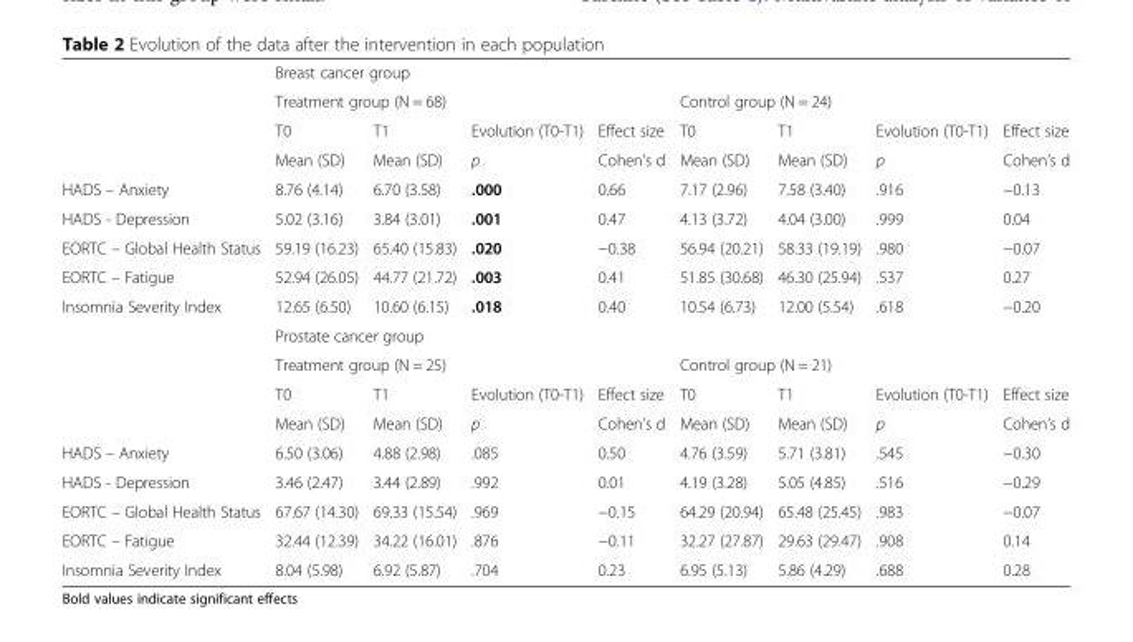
<table><thead><tr><td rowspan="3"></td><td colspan="8">Breast cancer group</td></tr><tr><td colspan="4">Treatment group (N = 68)</td><td colspan="4">Control group (N = 24)</td></tr><tr><td>T0</td><td>T1</td><td>Evolution (T0-T1)</td><td>Effect size</td><td>T0</td><td>T1</td><td>Evolution (T0-T1)</td><td>Effect size</td></tr></thead><tbody><tr><td></td><td>Mean (SD)</td><td>Mean (SD)</td><td>p</td><td>Cohen’s d</td><td>Mean (SD)</td><td>Mean (SD)</td><td>p</td><td>Cohen’s d</td></tr><tr><td>HADS – Anxiety</td><td>8.76 (4.14)</td><td>6.70 (3.58)</td><td>.000</td><td>0.66</td><td>7.17 (2.96)</td><td>7.58 (3.40)</td><td>.916</td><td>−0.13</td></tr><tr><td>HADS - Depression</td><td>5.02 (3.16)</td><td>3.84 (3.01)</td><td>.001</td><td>0.47</td><td>4.13 (3.72)</td><td>4.04 (3.00)</td><td>.999</td><td>0.04</td></tr><tr><td>EORTC – Global Health Status</td><td>59.19 (16.23)</td><td>65.40 (15.83)</td><td>.020</td><td>−0.38</td><td>56.94 (20.21)</td><td>58.33 (19.19)</td><td>.980</td><td>−0.07</td></tr><tr><td>EORTC – Fatigue</td><td>52.94 (26.05)</td><td>44.77 (21.72)</td><td>.003</td><td>0.41</td><td>51.85 (30.68)</td><td>46.30 (25.94)</td><td>.537</td><td>0.27</td></tr><tr><td rowspan="5">Insomnia Severity Index</td><td>12.65 (6.50)</td><td>10.60 (6.15)</td><td>.018</td><td>0.40</td><td>10.54 (6.73)</td><td>12.00 (5.54)</td><td>.618</td><td>−0.20</td></tr><tr><td colspan="8">Prostate cancer group</td></tr><tr><td colspan="4">Treatment group (N = 25)</td><td colspan="4">Control group (N = 21)</td></tr><tr><td>T0</td><td>T1</td><td>Evolution (T0-T1)</td><td>Effect size</td><td>T0</td><td>T1</td><td>Evolution (T0-T1)</td><td>Effect size</td></tr><tr><td>Mean (SD)</td><td>Mean (SD)</td><td>p</td><td>Cohen’s d</td><td>Mean (SD)</td><td>Mean (SD)</td><td>p</td><td>Cohen’s d</td></tr><tr><td>HADS – Anxiety</td><td>6.50 (3.06)</td><td>4.88 (2.98)</td><td>.085</td><td>0.50</td><td>4.76 (3.59)</td><td>5.71 (3.81)</td><td>.545</td><td>−0.30</td></tr><tr><td>HADS - Depression</td><td>3.46 (2.47)</td><td>3.44 (2.89)</td><td>.992</td><td>0.01</td><td>4.19 (3.28)</td><td>5.05 (4.85)</td><td>.516</td><td>−0.29</td></tr><tr><td>EORTC – Global Health Status</td><td>67.67 (14.30)</td><td>69.33 (15.54)</td><td>.969</td><td>−0.15</td><td>64.29 (20.94)</td><td>65.48 (25.45)</td><td>.983</td><td>−0.07</td></tr><tr><td>EORTC – Fatigue</td><td>32.44 (12.39)</td><td>34.22 (16.01)</td><td>.876</td><td>−0.11</td><td>32.27 (27.87)</td><td>29.63 (29.47)</td><td>.908</td><td>0.14</td></tr><tr><td>Insomnia Severity Index</td><td>8.04 (5.98)</td><td>6.92 (5.87)</td><td>.704</td><td>0.23</td><td>6.95 (5.13)</td><td>5.86 (4.29)</td><td>.688</td><td>0.28</td></tr></tbody></table>